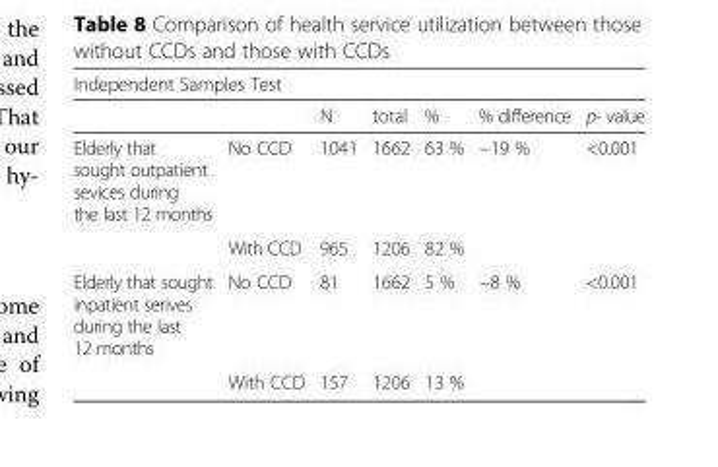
<table><thead><tr><td colspan="7">Independent Samples Test</td></tr><tr><td></td><td></td><td>N</td><td>total</td><td>%</td><td>% difference</td><td>p- value</td></tr></thead><tbody><tr><td rowspan="2">Elderly that sought outpatient sevices during the last 12 months</td><td>No CCD</td><td>1041</td><td>1662</td><td>63 %</td><td>−19 %</td><td>&lt;0.001</td></tr><tr><td>With CCD</td><td>965</td><td>1206</td><td>82 %</td><td></td><td></td></tr><tr><td rowspan="2">Elderly that sought inpatient serives during the last 12 months</td><td>No CCD</td><td>81</td><td>1662</td><td>5 %</td><td>−8 %</td><td>&lt;0.001</td></tr><tr><td>With CCD</td><td>157</td><td>1206</td><td>13 %</td><td></td><td></td></tr></tbody></table>